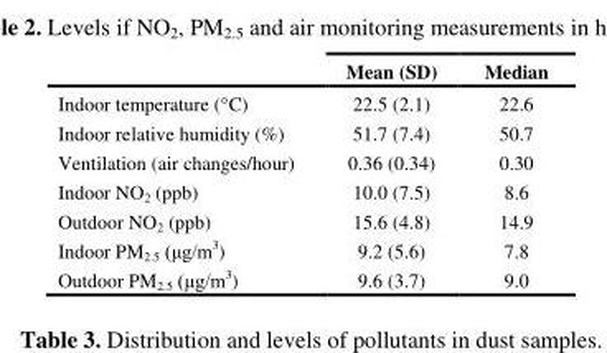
<table><thead><tr><td></td><td>Mean (SD)</td><td>Median</td></tr></thead><tbody><tr><td>Indoor temperature (°C)</td><td>22.5 (2.1)</td><td>22.6</td></tr><tr><td>Indoor relative humidity (%)</td><td>51.7 (7.4)</td><td>50.7</td></tr><tr><td>Ventilation (air changes/hour)</td><td>0.36 (0.34)</td><td>0.30</td></tr><tr><td>Indoor NO<sub>2</sub> (ppb)</td><td>10.0 (7.5)</td><td>8.6</td></tr><tr><td>Outdoor NO<sub>2</sub> (ppb)</td><td>15.6 (4.8)</td><td>14.9</td></tr><tr><td>Indoor PM<sub>2.5</sub> (μg/m<sup>3</sup>)</td><td>9.2 (5.6)</td><td>7.8</td></tr><tr><td>Outdoor PM<sub>2.5</sub> (μg/m<sup>3</sup>)</td><td>9.6 (3.7)</td><td>9.0</td></tr></tbody></table>